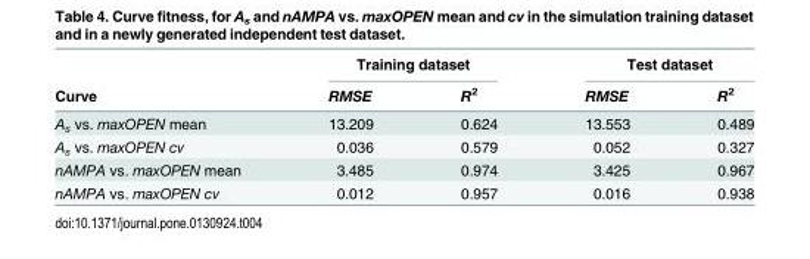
<table><thead><tr><td rowspan="2">Curve</td><td colspan="2">Training dataset</td><td colspan="2">Test dataset</td></tr><tr><td>RMSE</td><td>R<sup>2</sup></td><td>RMSE</td><td>R<sup>2</sup></td></tr></thead><tbody><tr><td>A<sub>s</sub> vs. maxOPEN mean</td><td>13.209</td><td>0.624</td><td>13.553</td><td>0.489</td></tr><tr><td>A<sub>s</sub> vs. maxOPEN cv</td><td>0.036</td><td>0.579</td><td>0.052</td><td>0.327</td></tr><tr><td>nAMPA vs. maxOPEN mean</td><td>3.485</td><td>0.974</td><td>3.425</td><td>0.967</td></tr><tr><td>nAMPA vs. maxOPEN cv</td><td>0.012</td><td>0.957</td><td>0.016</td><td>0.938</td></tr></tbody></table>